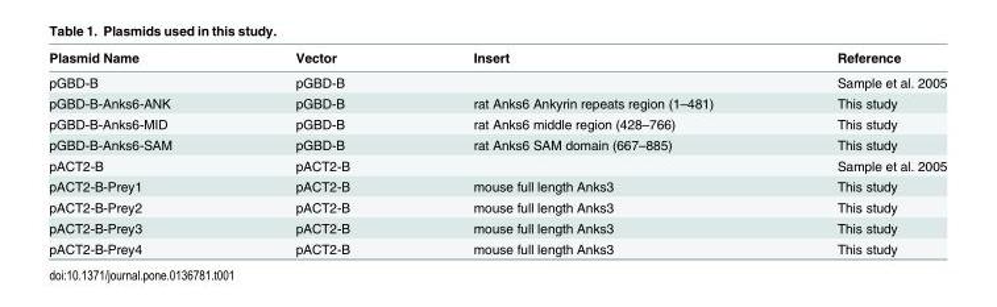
<table><thead><tr><td>Plasmid Name</td><td>Vector</td><td>Insert</td><td>Reference</td></tr></thead><tbody><tr><td>pGBD-B</td><td>pGBD-B</td><td></td><td>Sample et al. 2005</td></tr><tr><td>pGBD-B-Anks6-ANK</td><td>pGBD-B</td><td>rat Anks6 Ankyrin repeats region (1–481)</td><td>This study</td></tr><tr><td>pGBD-B-Anks6-MID</td><td>pGBD-B</td><td>rat Anks6 middle region (428–766)</td><td>This study</td></tr><tr><td>pGBD-B-Anks6-SAM</td><td>pGBD-B</td><td>rat Anks6 SAM domain (667–885)</td><td>This study</td></tr><tr><td>pACT2-B</td><td>pACT2-B</td><td></td><td>Sample et al. 2005</td></tr><tr><td>pACT2-B-Prey1</td><td>pACT2-B</td><td>mouse full length Anks3</td><td>This study</td></tr><tr><td>pACT2-B-Prey2</td><td>pACT2-B</td><td>mouse full length Anks3</td><td>This study</td></tr><tr><td>pACT2-B-Prey3</td><td>pACT2-B</td><td>mouse full length Anks3</td><td>This study</td></tr><tr><td>pACT2-B-Prey4</td><td>pACT2-B</td><td>mouse full length Anks3</td><td>This study</td></tr></tbody></table>